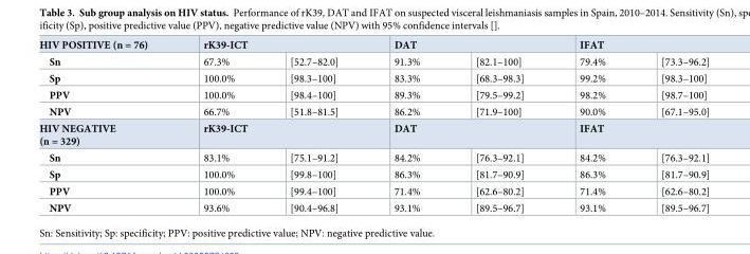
<table><tbody><tr><td>HIV POSITIVE (n = 76)</td><td colspan="2">rK39-ICT</td><td colspan="2">DAT</td><td colspan="2">IFAT</td></tr><tr><td>Sn</td><td>67.3%</td><td>[52.7–82.0]</td><td>91.3%</td><td>[82.1–100]</td><td>79.4%</td><td>[73.3–96.2]</td></tr><tr><td>Sp</td><td>100.0%</td><td>[98.3–100]</td><td>83.3%</td><td>[68.3–98.3]</td><td>99.2%</td><td>[98.3–100]</td></tr><tr><td>PPV</td><td>100.0%</td><td>[98.4–100]</td><td>89.3%</td><td>[79.5–99.2]</td><td>98.2%</td><td>[98.7–100]</td></tr><tr><td>NPV</td><td>66.7%</td><td>[51.8–81.5]</td><td>86.2%</td><td>[71.9–100]</td><td>90.0%</td><td>[67.1–95.0]</td></tr><tr><td>HIV NEGATIVE (n = 329)</td><td colspan="2">rK39-ICT</td><td colspan="2">DAT</td><td colspan="2">IFAT</td></tr><tr><td>Sn</td><td>83.1%</td><td>[75.1–91.2]</td><td>84.2%</td><td>[76.3–92.1]</td><td>84.2%</td><td>[76.3–92.1]</td></tr><tr><td>Sp</td><td>100.0%</td><td>[99.8–100]</td><td>86.3%</td><td>[81.7–90.9]</td><td>86.3%</td><td>[81.7–90.9]</td></tr><tr><td>PPV</td><td>100.0%</td><td>[99.4–100]</td><td>71.4%</td><td>[62.6–80.2]</td><td>71.4%</td><td>[62.6–80.2]</td></tr><tr><td>NPV</td><td>93.6%</td><td>[90.4–96.8]</td><td>93.1%</td><td>[89.5–96.7]</td><td>93.1%</td><td>[89.5–96.7]</td></tr></tbody></table>